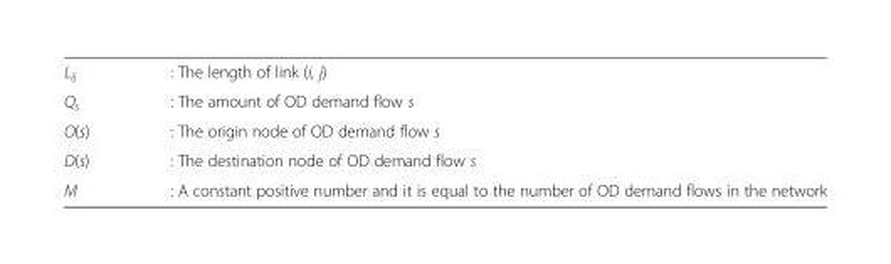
<table><tbody><tr><td>L<sub>ij</sub></td><td>: The length of link (i, j)</td></tr><tr><td>Q<sub>s</sub></td><td>: The amount of OD demand flow s</td></tr><tr><td>O(s)</td><td>: The origin node of OD demand flow s</td></tr><tr><td>D(s)</td><td>: The destination node of OD demand flow s</td></tr><tr><td>M</td><td>: A constant positive number and it is equal to the number of OD demand flows in the network</td></tr></tbody></table>